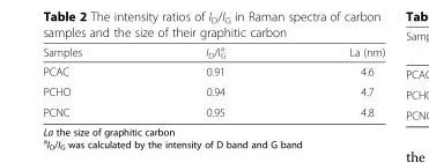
<table><thead><tr><td>Samples</td><td>I<sub>D</sub>/I<sub>G</sub> <sup>a</sup></td><td>La (nm)</td></tr></thead><tbody><tr><td>PCAC</td><td>0.91</td><td>4.6</td></tr><tr><td>PCHO</td><td>0.94</td><td>4.7</td></tr><tr><td>PCNC</td><td>0.95</td><td>4.8</td></tr></tbody></table>